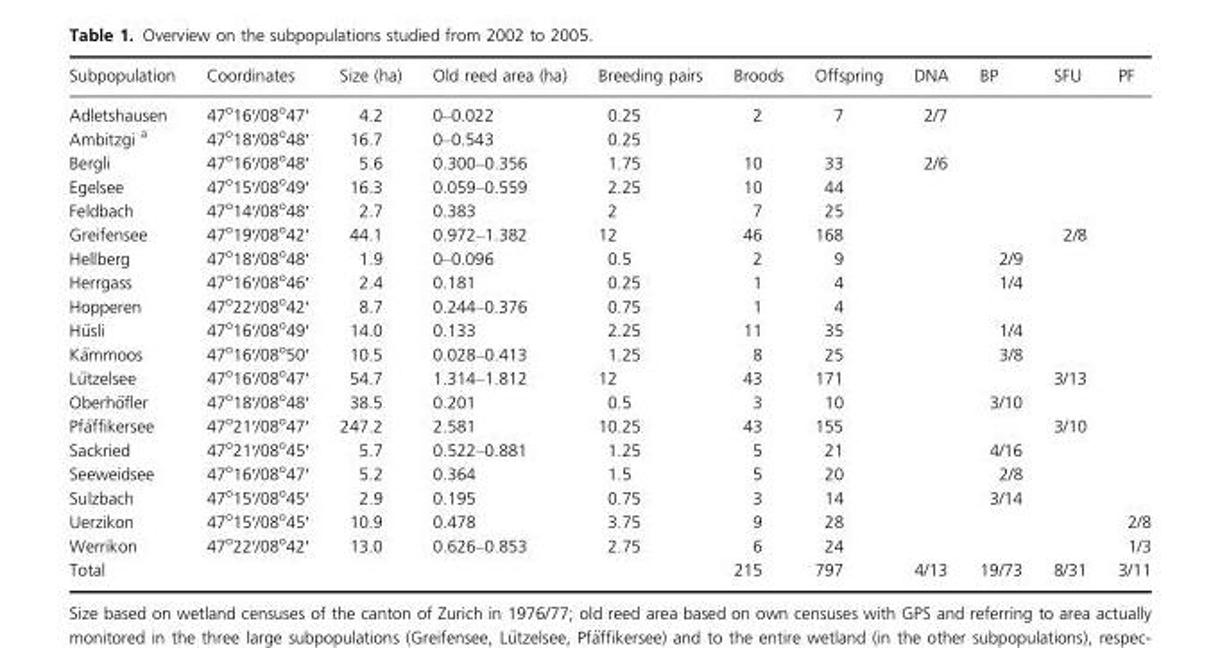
<table><thead><tr><td>Subpopulation</td><td>Coordinates</td><td>Size (ha)</td><td>Old reed area (ha)</td><td>Breeding pairs</td><td>Broods</td><td>Offspring</td><td>DNA</td><td>BP</td><td>SFU</td><td>PF</td></tr></thead><tbody><tr><td>Adletshausen</td><td>47<sup>o</sup>16′/08<sup>o</sup>47′</td><td>4.2</td><td>0–0.022</td><td>0.25</td><td>2</td><td>7</td><td>2/7</td><td></td><td></td><td></td></tr><tr><td>Ambitzgi <sup>a</sup></td><td>47<sup>o</sup>18′/08<sup>o</sup>48′</td><td>16.7</td><td>0–0.543</td><td>0.25</td><td></td><td></td><td></td><td></td><td></td><td></td></tr><tr><td>Bergli</td><td>47<sup>o</sup>16′/08<sup>o</sup>48′</td><td>5.6</td><td>0.300–0.356</td><td>1.75</td><td>10</td><td>33</td><td>2/6</td><td></td><td></td><td></td></tr><tr><td>Egelsee</td><td>47<sup>o</sup>15′/08<sup>o</sup>49′</td><td>16.3</td><td>0.059–0.559</td><td>2.25</td><td>10</td><td>44</td><td></td><td></td><td></td><td></td></tr><tr><td>Feldbach</td><td>47<sup>o</sup>14′/08<sup>o</sup>48′</td><td>2.7</td><td>0.383</td><td>2</td><td>7</td><td>25</td><td></td><td></td><td></td><td></td></tr><tr><td>Greifensee</td><td>47<sup>o</sup>19′/08<sup>o</sup>42′</td><td>44.1</td><td>0.972–1.382</td><td>12</td><td>46</td><td>168</td><td></td><td></td><td>2/8</td><td></td></tr><tr><td>Hellberg</td><td>47<sup>o</sup>18′/08<sup>o</sup>48′</td><td>1.9</td><td>0–0.096</td><td>0.5</td><td>2</td><td>9</td><td></td><td>2/9</td><td></td><td></td></tr><tr><td>Herrgass</td><td>47<sup>o</sup>16′/08<sup>o</sup>46′</td><td>2.4</td><td>0.181</td><td>0.25</td><td>1</td><td>4</td><td></td><td>1/4</td><td></td><td></td></tr><tr><td>Hopperen</td><td>47<sup>o</sup>22′/08<sup>o</sup>42′</td><td>8.7</td><td>0.244–0.376</td><td>0.75</td><td>1</td><td>4</td><td></td><td></td><td></td><td></td></tr><tr><td>H€usli</td><td>47<sup>o</sup>16′/08<sup>o</sup>49′</td><td>14.0</td><td>0.133</td><td>2.25</td><td>11</td><td>35</td><td></td><td>1/4</td><td></td><td></td></tr><tr><td>K€ammoos</td><td>47<sup>o</sup>16′/08<sup>o</sup>50′</td><td>10.5</td><td>0.028–0.413</td><td>1.25</td><td>8</td><td>25</td><td></td><td>3/8</td><td></td><td></td></tr><tr><td>L€utzelsee</td><td>47<sup>o</sup>16′/08<sup>o</sup>47′</td><td>54.7</td><td>1.314–1.812</td><td>12</td><td>43</td><td>171</td><td></td><td></td><td>3/13</td><td></td></tr><tr><td>Oberh€ofler</td><td>47<sup>o</sup>18′/08<sup>o</sup>48′</td><td>38.5</td><td>0.201</td><td>0.5</td><td>3</td><td>10</td><td></td><td>3/10</td><td></td><td></td></tr><tr><td>Pf€affikersee</td><td>47<sup>o</sup>21′/08<sup>o</sup>47′</td><td>247.2</td><td>2.581</td><td>10.25</td><td>43</td><td>155</td><td></td><td></td><td>3/10</td><td></td></tr><tr><td>Sackried</td><td>47<sup>o</sup>21′/08<sup>o</sup>45′</td><td>5.7</td><td>0.522–0.881</td><td>1.25</td><td>5</td><td>21</td><td></td><td>4/16</td><td></td><td></td></tr><tr><td>Seeweidsee</td><td>47<sup>o</sup>16′/08<sup>o</sup>47′</td><td>5.2</td><td>0.364</td><td>1.5</td><td>5</td><td>20</td><td></td><td>2/8</td><td></td><td></td></tr><tr><td>Sulzbach</td><td>47<sup>o</sup>15′/08<sup>o</sup>45′</td><td>2.9</td><td>0.195</td><td>0.75</td><td>3</td><td>14</td><td></td><td>3/14</td><td></td><td></td></tr><tr><td>Uerzikon</td><td>47<sup>o</sup>15′/08<sup>o</sup>45′</td><td>10.9</td><td>0.478</td><td>3.75</td><td>9</td><td>28</td><td></td><td></td><td></td><td>2/8</td></tr><tr><td>Werrikon</td><td>47<sup>o</sup>22′/08<sup>o</sup>42′</td><td>13.0</td><td>0.626–0.853</td><td>2.75</td><td>6</td><td>24</td><td></td><td></td><td></td><td>1/3</td></tr><tr><td>Total</td><td></td><td></td><td></td><td></td><td>215</td><td>797</td><td>4/13</td><td>19/73</td><td>8/31</td><td>3/11</td></tr></tbody></table>